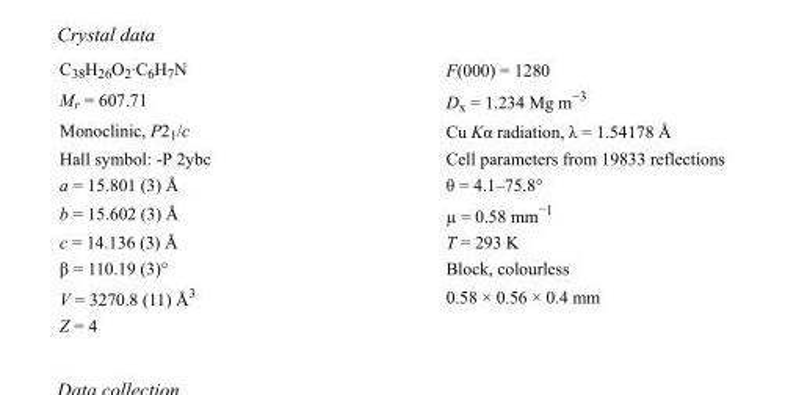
<table><tbody><tr><td>C<sub>38</sub>H<sub>26</sub>O<sub>2</sub>·C<sub>6</sub>H<sub>7</sub>N</td><td>F(000) = 1280</td></tr><tr><td>M<sub>r</sub> = 607.71</td><td>D<sub>x</sub> = 1.234 Mg m<sup>−3</sup></td></tr><tr><td>Monoclinic, P2<sub>1</sub>/c</td><td>Cu Kα radiation, λ = 1.54178 Å</td></tr><tr><td>Hall symbol: -P 2ybc</td><td>Cell parameters from 19833 reflections</td></tr><tr><td>a = 15.801 (3) Å</td><td>θ = 4.1–75.8°</td></tr><tr><td>b = 15.602 (3) Å</td><td>µ = 0.58 mm<sup>−1</sup></td></tr><tr><td>c = 14.136 (3) Å</td><td>T = 293 K</td></tr><tr><td>β = 110.19 (3)°</td><td>Block, colourless</td></tr><tr><td>V = 3270.8 (11) Å<sup>3</sup></td><td>0.58 × 0.56 × 0.4 mm</td></tr><tr><td>Z = 4</td><td></td></tr></tbody></table>